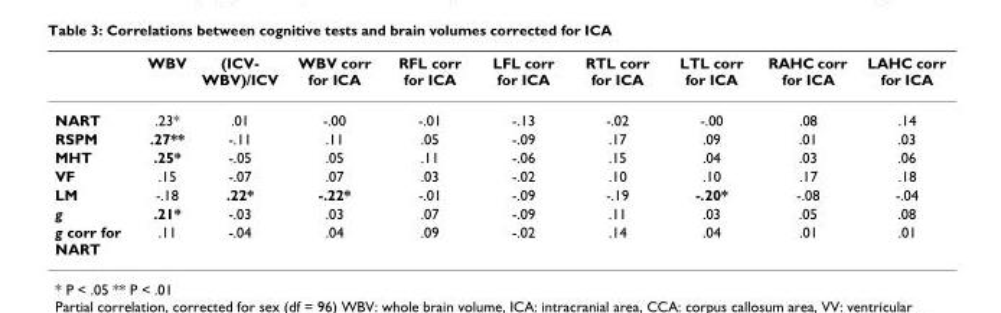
<table><thead><tr><td></td><td>WBV</td><td>(ICV- WBV)/ICV</td><td>WBV corr for ICA</td><td>RFL corr for ICA</td><td>LFL corr for ICA</td><td>RTL corr for ICA</td><td>LTL corr for ICA</td><td>RAHC corr for ICA</td><td>LAHC corr for ICA</td></tr></thead><tbody><tr><td>NART</td><td>.23*</td><td>.01</td><td>-.00</td><td>-.01</td><td>-.13</td><td>-.02</td><td>-.00</td><td>.08</td><td>.14</td></tr><tr><td>RSPM</td><td>.27**</td><td>-.11</td><td>.11</td><td>.05</td><td>-.09</td><td>.17</td><td>.09</td><td>.01</td><td>.03</td></tr><tr><td>MHT</td><td>.25*</td><td>-.05</td><td>.05</td><td>.11</td><td>-.06</td><td>.15</td><td>.04</td><td>.03</td><td>.06</td></tr><tr><td>VF</td><td>.15</td><td>-.07</td><td>.07</td><td>.03</td><td>-.02</td><td>.10</td><td>.10</td><td>.17</td><td>.18</td></tr><tr><td>LM</td><td>-.18</td><td>.22*</td><td>-.22*</td><td>-.01</td><td>-.09</td><td>-.19</td><td>-.20*</td><td>-.08</td><td>-.04</td></tr><tr><td>g</td><td>.21*</td><td>-.03</td><td>.03</td><td>.07</td><td>-.09</td><td>.11</td><td>.03</td><td>.05</td><td>.08</td></tr><tr><td>g corr for NART</td><td>.11</td><td>-.04</td><td>.04</td><td>.09</td><td>-.02</td><td>.14</td><td>.04</td><td>.01</td><td>.01</td></tr></tbody></table>